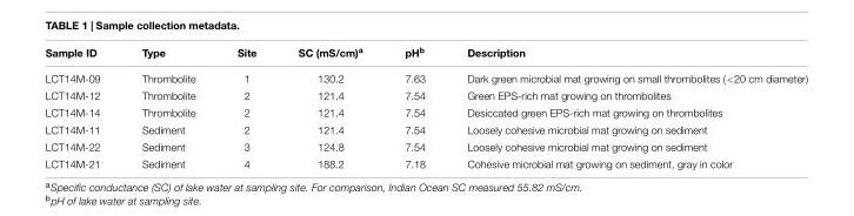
<table><thead><tr><td>Sample ID</td><td>Type</td><td>Site</td><td>SC (mS/cm)<sup>a</sup></td><td>pH<sup>b</sup></td><td>Description</td></tr></thead><tbody><tr><td>LCT14M-09</td><td>Thrombolite</td><td>1</td><td>130.2</td><td>7.63</td><td>Dark green microbial mat growing on small thrombolites (&lt;20 cm diameter)</td></tr><tr><td>LCT14M-12</td><td>Thrombolite</td><td>2</td><td>121.4</td><td>7.54</td><td>Green EPS-rich mat growing on thrombolites</td></tr><tr><td>LCT14M-14</td><td>Thrombolite</td><td>2</td><td>121.4</td><td>7.54</td><td>Desiccated green EPS-rich mat growing on thrombolites</td></tr><tr><td>LCT14M-11</td><td>Sediment</td><td>2</td><td>121.4</td><td>7.54</td><td>Loosely cohesive microbial mat growing on sediment</td></tr><tr><td>LCT14M-22</td><td>Sediment</td><td>3</td><td>124.8</td><td>7.54</td><td>Loosely cohesive microbial mat growing on sediment</td></tr><tr><td>LCT14M-21</td><td>Sediment</td><td>4</td><td>188.2</td><td>7.18</td><td>Cohesive microbial mat growing on sediment, gray in color</td></tr></tbody></table>